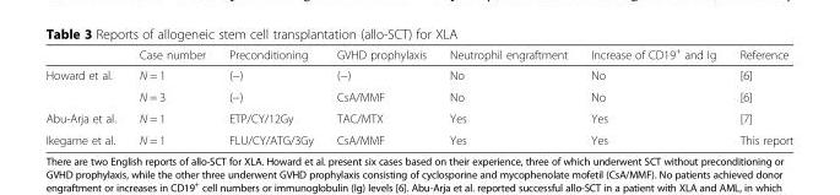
<table><thead><tr><td></td><td>Case number</td><td>Preconditioning</td><td>GVHD prophylaxis</td><td>Neutrophil engraftment</td><td>Increase of CD19<sup>+</sup> and Ig</td><td>Reference</td></tr></thead><tbody><tr><td rowspan="2">Howard et al.</td><td>N = 1</td><td>(−)</td><td>(−)</td><td>No</td><td>No</td><td>[6]</td></tr><tr><td>N = 3</td><td>(−)</td><td>CsA/MMF</td><td>No</td><td>No</td><td>[6]</td></tr><tr><td>Abu-Arja et al.</td><td>N = 1</td><td>ETP/CY/12Gy</td><td>TAC/MTX</td><td>Yes</td><td>Yes</td><td>[7]</td></tr><tr><td>Ikegame et al.</td><td>N = 1</td><td>FLU/CY/ATG/3Gy</td><td>CsA/MMF</td><td>Yes</td><td>Yes</td><td>This report</td></tr></tbody></table>